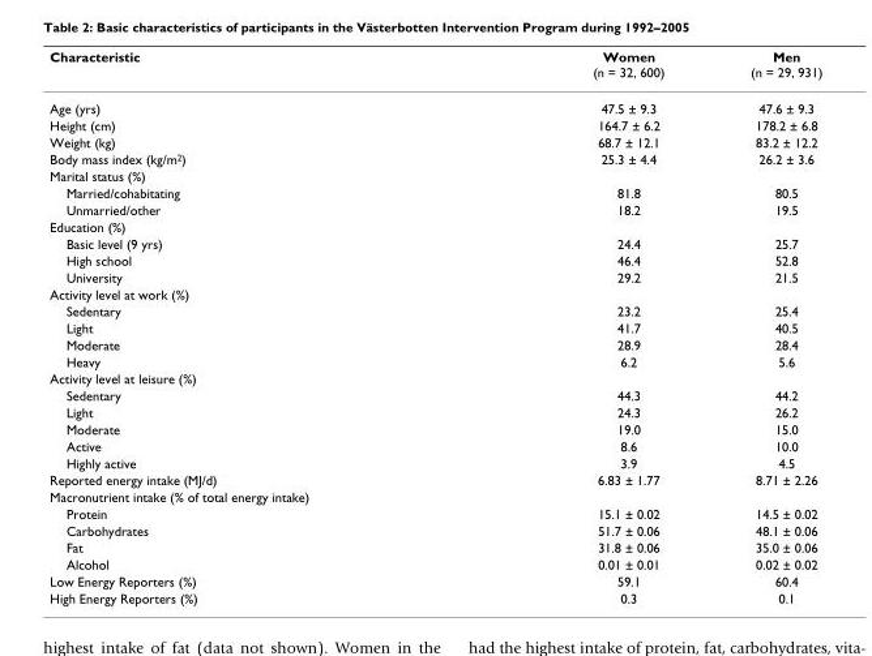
<table><thead><tr><td>Characteristic</td><td>Women (n = 32, 600)</td><td>Men (n = 29, 931)</td></tr></thead><tbody><tr><td>Age (yrs)</td><td>47.5 ± 9.3</td><td>47.6 ± 9.3</td></tr><tr><td>Height (cm)</td><td>164.7 ± 6.2</td><td>178.2 ± 6.8</td></tr><tr><td>Weight (kg)</td><td>68.7 ± 12.1</td><td>83.2 ± 12.2</td></tr><tr><td>Body mass index (kg/m<sup>2</sup>)</td><td>25.3 ± 4.4</td><td>26.2 ± 3.6</td></tr><tr><td colspan="3">Marital status (%)</td></tr><tr><td>Married/cohabitating</td><td>81.8</td><td>80.5</td></tr><tr><td>Unmarried/other</td><td>18.2</td><td>19.5</td></tr><tr><td colspan="3">Education (%)</td></tr><tr><td>Basic level (9 yrs)</td><td>24.4</td><td>25.7</td></tr><tr><td>High school</td><td>46.4</td><td>52.8</td></tr><tr><td>University</td><td>29.2</td><td>21.5</td></tr><tr><td colspan="3">Activity level at work (%)</td></tr><tr><td>Sedentary</td><td>23.2</td><td>25.4</td></tr><tr><td>Light</td><td>41.7</td><td>40.5</td></tr><tr><td>Moderate</td><td>28.9</td><td>28.4</td></tr><tr><td>Heavy</td><td>6.2</td><td>5.6</td></tr><tr><td colspan="3">Activity level at leisure (%)</td></tr><tr><td>Sedentary</td><td>44.3</td><td>44.2</td></tr><tr><td>Light</td><td>24.3</td><td>26.2</td></tr><tr><td>Moderate</td><td>19.0</td><td>15.0</td></tr><tr><td>Active</td><td>8.6</td><td>10.0</td></tr><tr><td>Highly active</td><td>3.9</td><td>4.5</td></tr><tr><td>Reported energy intake (MJ/d)</td><td>6.83 ± 1.77</td><td>8.71 ± 2.26</td></tr><tr><td colspan="3">Macronutrient intake (% of total energy intake)</td></tr><tr><td>Protein</td><td>15.1 ± 0.02</td><td>14.5 ± 0.02</td></tr><tr><td>Carbohydrates</td><td>51.7 ± 0.06</td><td>48.1 ± 0.06</td></tr><tr><td>Fat</td><td>31.8 ± 0.06</td><td>35.0 ± 0.06</td></tr><tr><td>Alcohol</td><td>0.01 ± 0.01</td><td>0.02 ± 0.02</td></tr><tr><td>Low Energy Reporters (%)</td><td>59.1</td><td>60.4</td></tr><tr><td>High Energy Reporters (%)</td><td>0.3</td><td>0.1</td></tr></tbody></table>